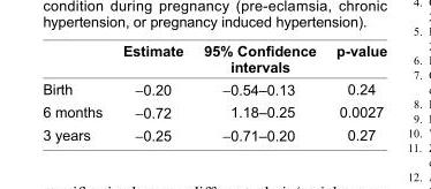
<table><thead><tr><td></td><td>Estimate</td><td>95% Confi dence intervals</td><td>p-value</td></tr></thead><tbody><tr><td>Birth</td><td>−0.20</td><td>−0.54–0.13</td><td>0.24</td></tr><tr><td>6 months</td><td>−0.72</td><td>1.18–0.25</td><td>0.0027</td></tr><tr><td>3 years</td><td>−0.25</td><td>−0.71–0.20</td><td>0.27</td></tr></tbody></table>